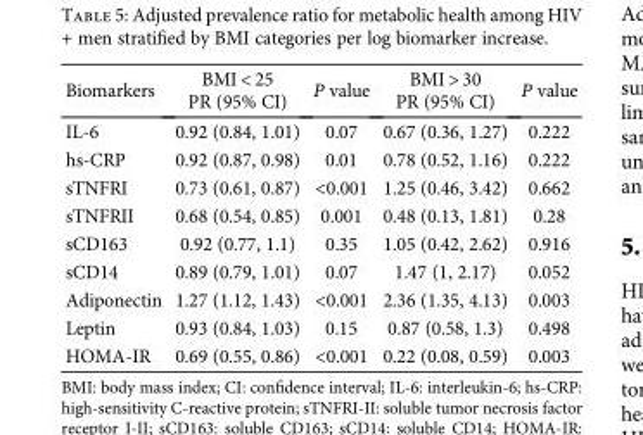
<table><thead><tr><td>Biomarkers</td><td>BMI &lt; 25 PR (95% CI)</td><td>P value</td><td>BMI &gt; 30 PR (95% CI)</td><td>P value</td></tr></thead><tbody><tr><td>IL-6</td><td>0.92 (0.84, 1.01)</td><td>0.07</td><td>0.67 (0.36, 1.27)</td><td>0.222</td></tr><tr><td>hs-CRP</td><td>0.92 (0.87, 0.98)</td><td>0.01</td><td>0.78 (0.52, 1.16)</td><td>0.222</td></tr><tr><td>sTNFRI</td><td>0.73 (0.61, 0.87)</td><td>&lt;0.001</td><td>1.25 (0.46, 3.42)</td><td>0.662</td></tr><tr><td>sTNFRII</td><td>0.68 (0.54, 0.85)</td><td>0.001</td><td>0.48 (0.13, 1.81)</td><td>0.28</td></tr><tr><td>sCD163</td><td>0.92 (0.77, 1.1)</td><td>0.35</td><td>1.05 (0.42, 2.62)</td><td>0.916</td></tr><tr><td>sCD14</td><td>0.89 (0.79, 1.01)</td><td>0.07</td><td>1.47 (1, 2.17)</td><td>0.052</td></tr><tr><td>Adiponectin</td><td>1.27 (1.12, 1.43)</td><td>&lt;0.001</td><td>2.36 (1.35, 4.13)</td><td>0.003</td></tr><tr><td>Leptin</td><td>0.93 (0.84, 1.03)</td><td>0.15</td><td>0.87 (0.58, 1.3)</td><td>0.498</td></tr><tr><td>HOMA-IR</td><td>0.69 (0.55, 0.86)</td><td>&lt;0.001</td><td>0.22 (0.08, 0.59)</td><td>0.003</td></tr></tbody></table>